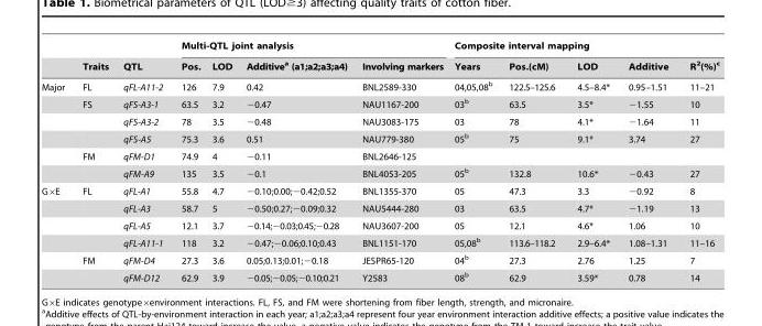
<table><thead><tr><td rowspan="2"></td><td rowspan="2">Traits</td><td rowspan="2">QTL</td><td colspan="4">Multi-QTL joint analysis</td><td colspan="5">Composite interval mapping</td></tr><tr><td>Pos.</td><td>LOD</td><td>Additive<sup>a</sup> (a1;a2;a3;a4)</td><td>Involving markers</td><td>Years</td><td>Pos.(cM)</td><td>LOD</td><td>Additive</td><td>R<sup>2</sup>(%)<sup>c</sup></td></tr></thead><tbody><tr><td rowspan="6">Major</td><td>FL</td><td>qFL-A11-2</td><td>126</td><td>7.9</td><td>0.42</td><td>BNL2589-330</td><td>04,05,08<sup>b</sup></td><td>122.5–125.6</td><td>4.5–8.4*</td><td>0.95–1.51</td><td>11–21</td></tr><tr><td>FS</td><td>qFS-A3-1</td><td>63.5</td><td>3.2</td><td>−0.47</td><td>NAU1167-200</td><td>03<sup>b</sup></td><td>63.5</td><td>3.5*</td><td>−1.55</td><td>10</td></tr><tr><td></td><td>qFS-A3-2</td><td>78</td><td>3.5</td><td>−0.48</td><td>NAU3083-175</td><td>03</td><td>78</td><td>4.1*</td><td>−1.64</td><td>11</td></tr><tr><td></td><td>qFS-A5</td><td>75.3</td><td>3.6</td><td>0.51</td><td>NAU779-380</td><td>05<sup>b</sup></td><td>75</td><td>9.1*</td><td>3.74</td><td>27</td></tr><tr><td>FM</td><td>qFM-D1</td><td>74.9</td><td>4</td><td>−0.11</td><td>BNL2646-125</td><td></td><td></td><td></td><td></td><td></td></tr><tr><td></td><td>qFM-A9</td><td>135</td><td>3.5</td><td>−0.1</td><td>BNL4053-205</td><td>05<sup>b</sup></td><td>132.8</td><td>10.6*</td><td>−0.43</td><td>27</td></tr><tr><td rowspan="6">G×E</td><td>FL</td><td>qFL-A1</td><td>55.8</td><td>4.7</td><td>−0.10;0.00;−0.42;0.52</td><td>BNL1355-370</td><td>05</td><td>47.3</td><td>3.3</td><td>−0.92</td><td>8</td></tr><tr><td></td><td>qFL-A3</td><td>58.7</td><td>5</td><td>−0.50;0.27;−0.09;0.32</td><td>NAU5444-280</td><td>03</td><td>63.5</td><td>4.7*</td><td>−1.19</td><td>13</td></tr><tr><td></td><td>qFL-A5</td><td>12.1</td><td>3.7</td><td>−0.14;−0.03;0.45;−0.28</td><td>NAU3607-200</td><td>05</td><td>12.1</td><td>4.6*</td><td>1.06</td><td>10</td></tr><tr><td></td><td>qFL-A11-1</td><td>118</td><td>3.2</td><td>−0.47;−0.06;0.10;0.43</td><td>BNL1151-170</td><td>05,08<sup>b</sup></td><td>113.6–118.2</td><td>2.9–6.4*</td><td>1.08–1.31</td><td>11–16</td></tr><tr><td>FM</td><td>qFM-D4</td><td>27.3</td><td>3.6</td><td>0.05;0.13;0.01;−0.18</td><td>JESPR65-120</td><td>04<sup>b</sup></td><td>27.3</td><td>2.76</td><td>1.25</td><td>7</td></tr><tr><td></td><td>qFM-D12</td><td>62.9</td><td>3.9</td><td>−0.05;−0.05;−0.10;0.21</td><td>Y2583</td><td>08<sup>b</sup></td><td>62.9</td><td>3.59*</td><td>0.78</td><td>14</td></tr></tbody></table>